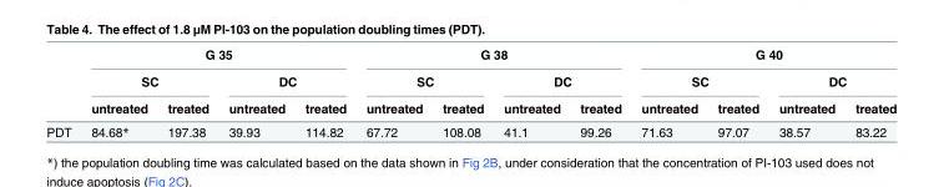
<table><thead><tr><td rowspan="3"></td><td colspan="4">G 35</td><td colspan="4">G 38</td><td colspan="4">G 40</td></tr><tr><td colspan="2">SC</td><td colspan="2">DC</td><td colspan="2">SC</td><td colspan="2">DC</td><td colspan="2">SC</td><td colspan="2">DC</td></tr><tr><td>untreated</td><td>treated</td><td>untreated</td><td>treated</td><td>untreated</td><td>treated</td><td>untreated</td><td>treated</td><td>untreated</td><td>treated</td><td>untreated</td><td>treated</td></tr></thead><tbody><tr><td>PDT</td><td>84.68*</td><td>197.38</td><td>39.93</td><td>114.82</td><td>67.72</td><td>108.08</td><td>41.1</td><td>99.26</td><td>71.63</td><td>97.07</td><td>38.57</td><td>83.22</td></tr></tbody></table>